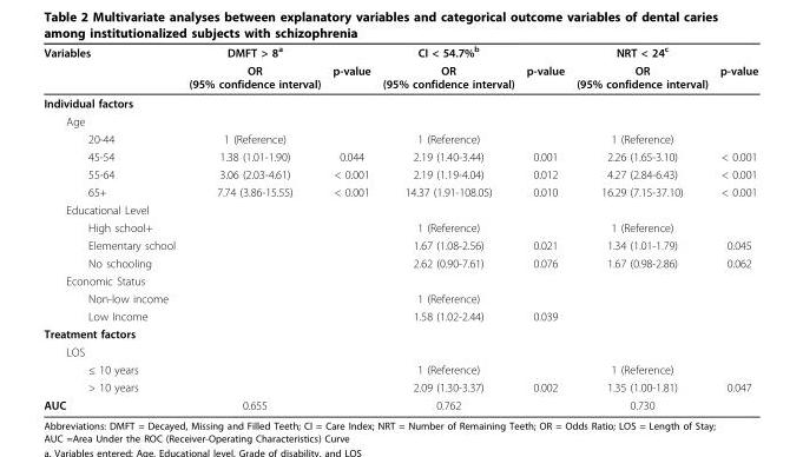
<table><thead><tr><td rowspan="2">Variables</td><td rowspan="2">DMFT &gt; 8<sup>a</sup> OR (95% confidence interval)</td><td rowspan="2">p-value</td><td rowspan="2">CI &lt; 54.7%<sup>b</sup> OR (95% confidence interval)</td><td rowspan="2">p-value</td><td rowspan="2">NRT &lt; 24<sup>c</sup> OR (95% confidence interval)</td><td rowspan="2">p-value</td></tr><tr></tr></thead><tbody><tr><td colspan="7">Individual factors</td></tr><tr><td colspan="7">Age</td></tr><tr><td>20-44</td><td>1 (Reference)</td><td></td><td>1 (Reference)</td><td></td><td>1 (Reference)</td><td></td></tr><tr><td>45-54</td><td>1.38 (1.01-1.90)</td><td>0.044</td><td>2.19 (1.40-3.44)</td><td>0.001</td><td>2.26 (1.65-3.10)</td><td>&lt; 0.001</td></tr><tr><td>55-64</td><td>3.06 (2.03-4.61)</td><td>&lt; 0.001</td><td>2.19 (1.19-4.04)</td><td>0.012</td><td>4.27 (2.84-6.43)</td><td>&lt; 0.001</td></tr><tr><td>65+</td><td>7.74 (3.86-15.55)</td><td>&lt; 0.001</td><td>14.37 (1.91-108.05)</td><td>0.010</td><td>16.29 (7.15-37.10)</td><td>&lt; 0.001</td></tr><tr><td colspan="7">Educational Level</td></tr><tr><td>High school+</td><td></td><td></td><td>1 (Reference)</td><td></td><td>1 (Reference)</td><td></td></tr><tr><td>Elementary school</td><td></td><td></td><td>1.67 (1.08-2.56)</td><td>0.021</td><td>1.34 (1.01-1.79)</td><td>0.045</td></tr><tr><td>No schooling</td><td></td><td></td><td>2.62 (0.90-7.61)</td><td>0.076</td><td>1.67 (0.98-2.86)</td><td>0.062</td></tr><tr><td colspan="7">Economic Status</td></tr><tr><td>Non-low income</td><td></td><td></td><td>1 (Reference)</td><td></td><td></td><td></td></tr><tr><td>Low Income</td><td></td><td></td><td>1.58 (1.02-2.44)</td><td>0.039</td><td></td><td></td></tr><tr><td colspan="7">Treatment factors</td></tr><tr><td colspan="7">LOS</td></tr><tr><td>≤ 10 years</td><td></td><td></td><td>1 (Reference)</td><td></td><td>1 (Reference)</td><td></td></tr><tr><td>&gt; 10 years</td><td></td><td></td><td>2.09 (1.30-3.37)</td><td>0.002</td><td>1.35 (1.00-1.81)</td><td>0.047</td></tr><tr><td>AUC</td><td>0.655</td><td></td><td>0.762</td><td></td><td>0.730</td><td></td></tr></tbody></table>